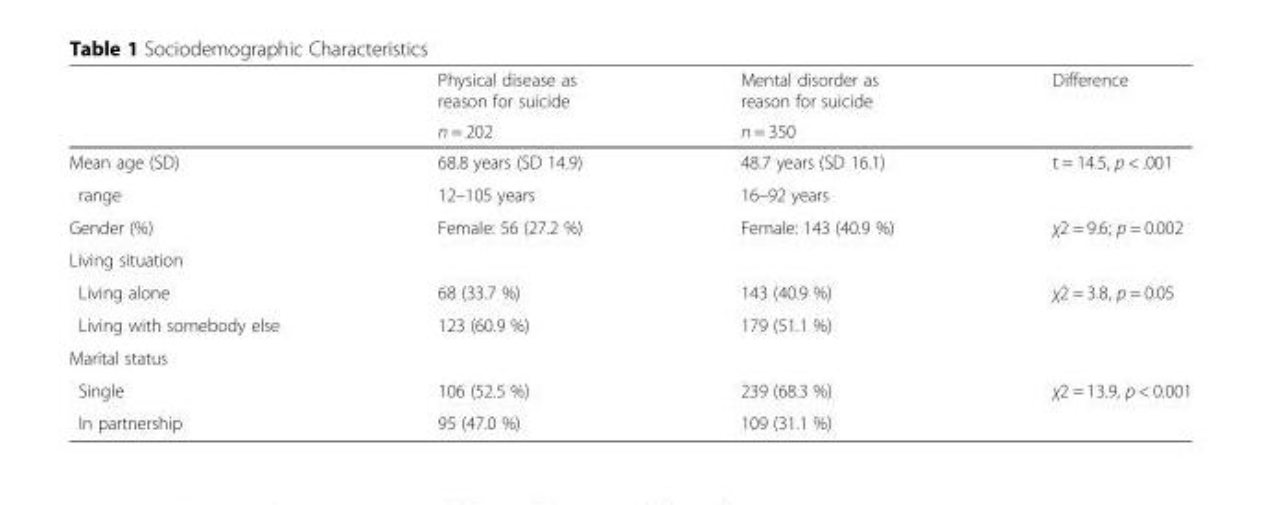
<table><thead><tr><td rowspan="2"></td><td rowspan="2">Physical disease as reason for suicide n = 202</td><td rowspan="2">Mental disorder as reason for suicide n = 350</td><td rowspan="2">Difference</td></tr><tr></tr></thead><tbody><tr><td>Mean age (SD)</td><td>68.8 years (SD 14.9)</td><td>48.7 years (SD 16.1)</td><td rowspan="2">t = 14.5, p &lt; .001</td></tr><tr><td>range</td><td>12–105 years</td><td>16–92 years</td></tr><tr><td>Gender (%)</td><td>Female: 56 (27.2 %)</td><td>Female: 143 (40.9 %)</td><td>χ2 = 9.6; p = 0.002</td></tr><tr><td colspan="4">Living situation</td></tr><tr><td>Living alone</td><td>68 (33.7 %)</td><td>143 (40.9 %)</td><td rowspan="2">χ2 = 3.8, p = 0.05</td></tr><tr><td>Living with somebody else</td><td>123 (60.9 %)</td><td>179 (51.1 %)</td></tr><tr><td colspan="4">Marital status</td></tr><tr><td>Single</td><td>106 (52.5 %)</td><td>239 (68.3 %)</td><td rowspan="2">χ2 = 13.9, p &lt; 0.001</td></tr><tr><td>In partnership</td><td>95 (47.0 %)</td><td>109 (31.1 %)</td></tr></tbody></table>